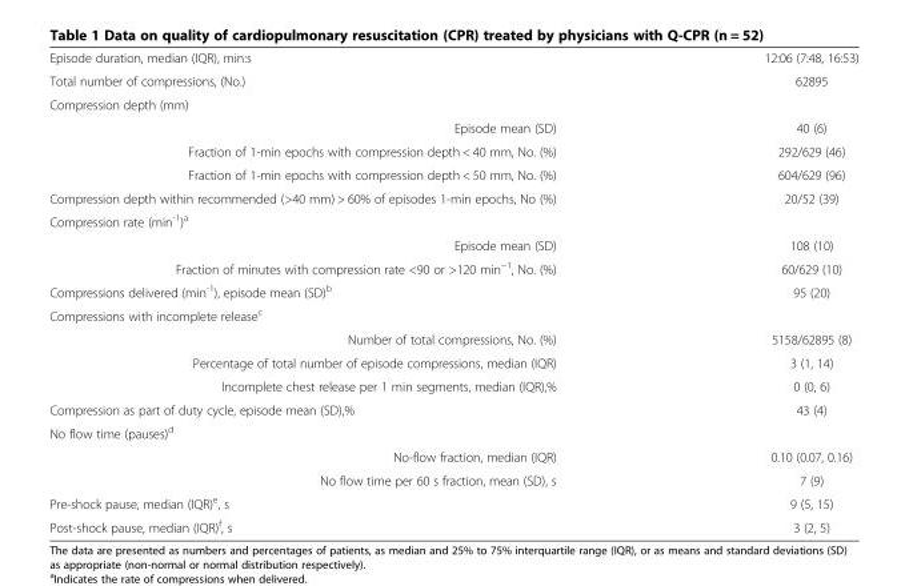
<table><tbody><tr><td>Episode duration, median (IQR), min:s</td><td>12:06 (7:48, 16:53)</td></tr><tr><td>Total number of compressions, (No.)</td><td>62895</td></tr><tr><td colspan="2">Compression depth (mm)</td></tr><tr><td>Episode mean (SD)</td><td>40 (6)</td></tr><tr><td>Fraction of 1-min epochs with compression depth &lt; 40 mm, No. (%)</td><td>292/629 (46)</td></tr><tr><td>Fraction of 1-min epochs with compression depth &lt; 50 mm, No. (%)</td><td>604/629 (96)</td></tr><tr><td>Compression depth within recommended (&gt;40 mm) &gt; 60% of episodes 1-min epochs, No (%)</td><td>20/52 (39)</td></tr><tr><td colspan="2">Compression rate (min<sup>-1</sup>)<sup>a</sup></td></tr><tr><td>Episode mean (SD)</td><td>108 (10)</td></tr><tr><td>Fraction of minutes with compression rate &lt;90 or &gt;120 min<sup>−1</sup>, No. (%)</td><td>60/629 (10)</td></tr><tr><td>Compressions delivered (min<sup>-1</sup>), episode mean (SD)<sup>b</sup></td><td>95 (20)</td></tr><tr><td colspan="2">Compressions with incomplete release<sup>c</sup></td></tr><tr><td>Number of total compressions, No. (%)</td><td>5158/62895 (8)</td></tr><tr><td>Percentage of total number of episode compressions, median (IQR)</td><td>3 (1, 14)</td></tr><tr><td>Incomplete chest release per 1 min segments, median (IQR),%</td><td>0 (0, 6)</td></tr><tr><td>Compression as part of duty cycle, episode mean (SD),%</td><td>43 (4)</td></tr><tr><td colspan="2">No flow time (pauses)<sup>d</sup></td></tr><tr><td>No-flow fraction, median (IQR)</td><td>0.10 (0.07, 0.16)</td></tr><tr><td>No flow time per 60 s fraction, mean (SD), s</td><td>7 (9)</td></tr><tr><td>Pre-shock pause, median (IQR)<sup>e</sup>, s</td><td>9 (5, 15)</td></tr><tr><td>Post-shock pause, median (IQR)<sup>f</sup>, s</td><td>3 (2, 5)</td></tr></tbody></table>